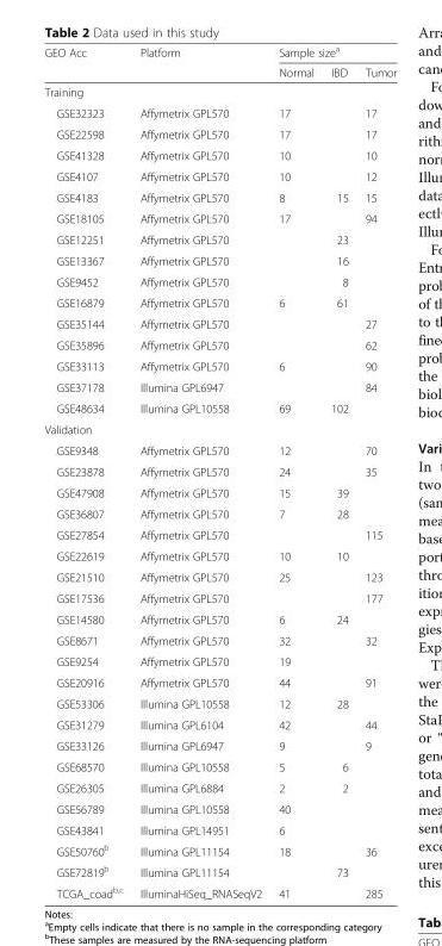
<table><thead><tr><td rowspan="2">GEO Acc</td><td rowspan="2">Platform</td><td colspan="3">Sample size<sup>a</sup></td></tr><tr><td>Normal</td><td>IBD</td><td>Tumor</td></tr></thead><tbody><tr><td colspan="5">Training</td></tr><tr><td>GSE32323</td><td>Affymetrix GPL570</td><td>17</td><td></td><td>17</td></tr><tr><td>GSE22598</td><td>Affymetrix GPL570</td><td>17</td><td></td><td>17</td></tr><tr><td>GSE41328</td><td>Affymetrix GPL570</td><td>10</td><td></td><td>10</td></tr><tr><td>GSE4107</td><td>Affymetrix GPL570</td><td>10</td><td></td><td>12</td></tr><tr><td>GSE4183</td><td>Affymetrix GPL570</td><td>8</td><td>15</td><td>15</td></tr><tr><td>GSE18105</td><td>Affymetrix GPL570</td><td>17</td><td></td><td>94</td></tr><tr><td>GSE12251</td><td>Affymetrix GPL570</td><td></td><td>23</td><td></td></tr><tr><td>GSE13367</td><td>Affymetrix GPL570</td><td></td><td>16</td><td></td></tr><tr><td>GSE9452</td><td>Affymetrix GPL570</td><td></td><td>8</td><td></td></tr><tr><td>GSE16879</td><td>Affymetrix GPL570</td><td>6</td><td>61</td><td></td></tr><tr><td>GSE35144</td><td>Affymetrix GPL570</td><td></td><td></td><td>27</td></tr><tr><td>GSE35896</td><td>Affymetrix GPL570</td><td></td><td></td><td>62</td></tr><tr><td>GSE33113</td><td>Affymetrix GPL570</td><td>6</td><td></td><td>90</td></tr><tr><td>GSE37178</td><td>Illumina GPL6947</td><td></td><td></td><td>84</td></tr><tr><td>GSE48634</td><td>Illumina GPL10558</td><td>69</td><td>102</td><td></td></tr><tr><td colspan="5">Validation</td></tr><tr><td>GSE9348</td><td>Affymetrix GPL570</td><td>12</td><td></td><td>70</td></tr><tr><td>GSE23878</td><td>Affymetrix GPL570</td><td>24</td><td></td><td>35</td></tr><tr><td>GSE47908</td><td>Affymetrix GPL570</td><td>15</td><td>39</td><td></td></tr><tr><td>GSE36807</td><td>Affymetrix GPL570</td><td>7</td><td>28</td><td></td></tr><tr><td>GSE27854</td><td>Affymetrix GPL570</td><td></td><td></td><td>115</td></tr><tr><td>GSE22619</td><td>Affymetrix GPL570</td><td>10</td><td>10</td><td></td></tr><tr><td>GSE21510</td><td>Affymetrix GPL570</td><td>25</td><td></td><td>123</td></tr><tr><td>GSE17536</td><td>Affymetrix GPL570</td><td></td><td></td><td>177</td></tr><tr><td>GSE14580</td><td>Affymetrix GPL570</td><td>6</td><td>24</td><td></td></tr><tr><td>GSE8671</td><td>Affymetrix GPL570</td><td>32</td><td></td><td>32</td></tr><tr><td>GSE9254</td><td>Affymetrix GPL570</td><td>19</td><td></td><td></td></tr><tr><td>GSE20916</td><td>Affymetrix GPL570</td><td>44</td><td></td><td>91</td></tr><tr><td>GSE53306</td><td>Illumina GPL10558</td><td>12</td><td>28</td><td></td></tr><tr><td>GSE31279</td><td>Illumina GPL6104</td><td>42</td><td></td><td>44</td></tr><tr><td>GSE33126</td><td>Illumina GPL6947</td><td>9</td><td></td><td>9</td></tr><tr><td>GSE68570</td><td>Illumina GPL10558</td><td>5</td><td>6</td><td></td></tr><tr><td>GSE26305</td><td>Illumina GPL6884</td><td>2</td><td>2</td><td></td></tr><tr><td>GSE56789</td><td>Illumina GPL10558</td><td>40</td><td></td><td></td></tr><tr><td>GSE43841</td><td>Illumina GPL14951</td><td>6</td><td></td><td></td></tr><tr><td>GSE50760<sup>b</sup></td><td>Illumina GPL11154</td><td>18</td><td></td><td>36</td></tr><tr><td>GSE72819<sup>b</sup></td><td>Illumina GPL11154</td><td></td><td>73</td><td></td></tr><tr><td>TCGA_coad<sup>b,c</sup></td><td>IlluminaHiSeq_RNASeqV2</td><td>41</td><td></td><td>285</td></tr></tbody></table>